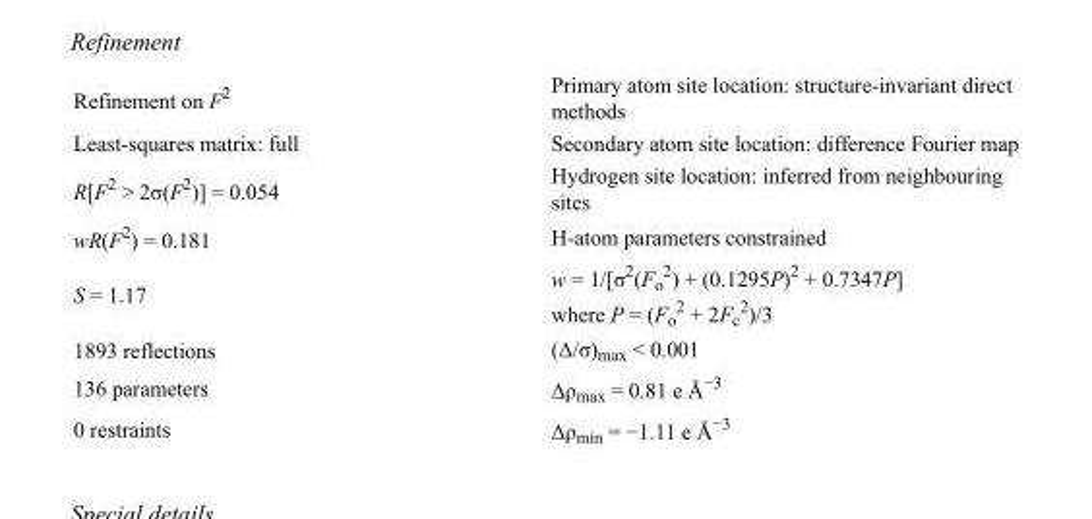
<table><tbody><tr><td>Refinement on F<sup>2</sup></td><td>Primary atom site location: structure-invariant direct methods</td></tr><tr><td>Least-squares matrix: full</td><td>Secondary atom site location: difference Fourier map</td></tr><tr><td>R[F<sup>2</sup> &gt; 2σ(F<sup>2</sup>)] = 0.054</td><td>Hydrogen site location: inferred from neighbouring sites</td></tr><tr><td>wR(F<sup>2</sup>) = 0.181</td><td>H-atom parameters constrained</td></tr><tr><td>S = 1.17</td><td>w = 1/[σ<sup>2</sup>(F<sub>o</sub> <sup>2</sup>) + (0.1295P)<sup>2</sup> + 0.7347P] where P = (F<sub>o</sub> <sup>2</sup> + 2F<sub>c</sub> <sup>2</sup>)/3</td></tr><tr><td>1893 reflections</td><td>(Δ/σ)<sub>max</sub> &lt; 0.001</td></tr><tr><td>136 parameters</td><td>Δρ<sub>max</sub> = 0.81 e Å<sup>−3</sup></td></tr><tr><td>0 restraints</td><td>Δρ<sub>min</sub> = −1.11 e Å<sup>−3</sup></td></tr></tbody></table>